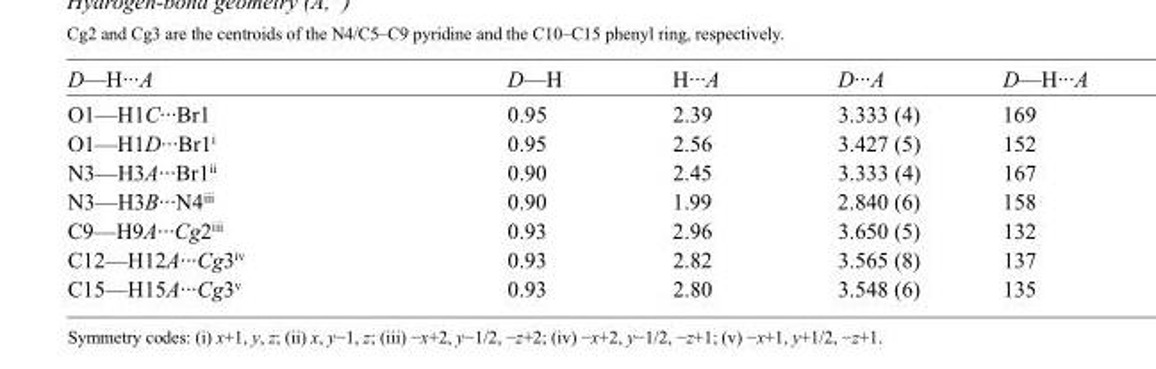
<table><tbody><tr><td>D—H···A</td><td>D—H</td><td>H···A</td><td>D···A</td><td>D—H···A</td></tr><tr><td>O1—H1C···Br1</td><td>0.95</td><td>2.39</td><td>3.333 (4)</td><td>169</td></tr><tr><td>O1—H1D···Br1<sup>i</sup></td><td>0.95</td><td>2.56</td><td>3.427 (5)</td><td>152</td></tr><tr><td>N3—H3A···Br1<sup>ii</sup></td><td>0.90</td><td>2.45</td><td>3.333 (4)</td><td>167</td></tr><tr><td>N3—H3B···N4<sup>iii</sup></td><td>0.90</td><td>1.99</td><td>2.840 (6)</td><td>158</td></tr><tr><td>C9—H9A···Cg2<sup>iii</sup></td><td>0.93</td><td>2.96</td><td>3.650 (5)</td><td>132</td></tr><tr><td>C12—H12A···Cg3<sup>iv</sup></td><td>0.93</td><td>2.82</td><td>3.565 (8)</td><td>137</td></tr><tr><td>C15—H15A···Cg3<sup>v</sup></td><td>0.93</td><td>2.80</td><td>3.548 (6)</td><td>135</td></tr></tbody></table>